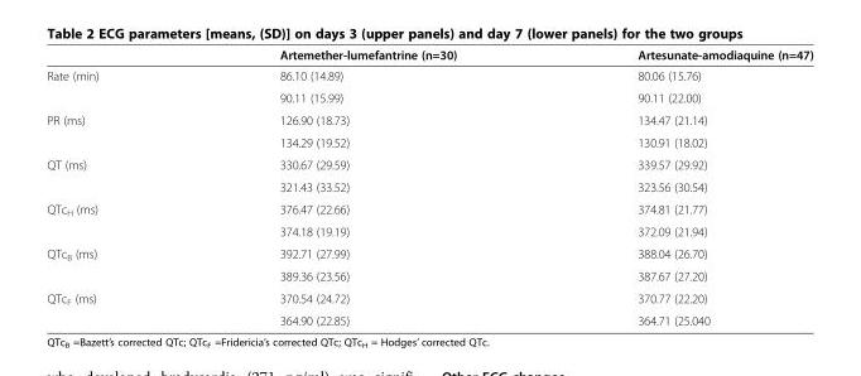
<table><thead><tr><td></td><td>Artemether-lumefantrine (n=30)</td><td>Artesunate-amodiaquine (n=47)</td></tr></thead><tbody><tr><td rowspan="2">Rate (min)</td><td>86.10 (14.89)</td><td>80.06 (15.76)</td></tr><tr><td>90.11 (15.99)</td><td>90.11 (22.00)</td></tr><tr><td rowspan="2">PR (ms)</td><td>126.90 (18.73)</td><td>134.47 (21.14)</td></tr><tr><td>134.29 (19.52)</td><td>130.91 (18.02)</td></tr><tr><td rowspan="2">QT (ms)</td><td>330.67 (29.59)</td><td>339.57 (29.92)</td></tr><tr><td>321.43 (33.52)</td><td>323.56 (30.54)</td></tr><tr><td rowspan="2">QTc<sub>H</sub> (ms)</td><td>376.47 (22.66)</td><td>374.81 (21.77)</td></tr><tr><td>374.18 (19.19)</td><td>372.09 (21.94)</td></tr><tr><td rowspan="2">QTc<sub>B</sub> (ms)</td><td>392.71 (27.99)</td><td>388.04 (26.70)</td></tr><tr><td>389.36 (23.56)</td><td>387.67 (27.20)</td></tr><tr><td rowspan="2">QTc<sub>F</sub> (ms)</td><td>370.54 (24.72)</td><td>370.77 (22.20)</td></tr><tr><td>364.90 (22.85)</td><td>364.71 (25.040</td></tr></tbody></table>